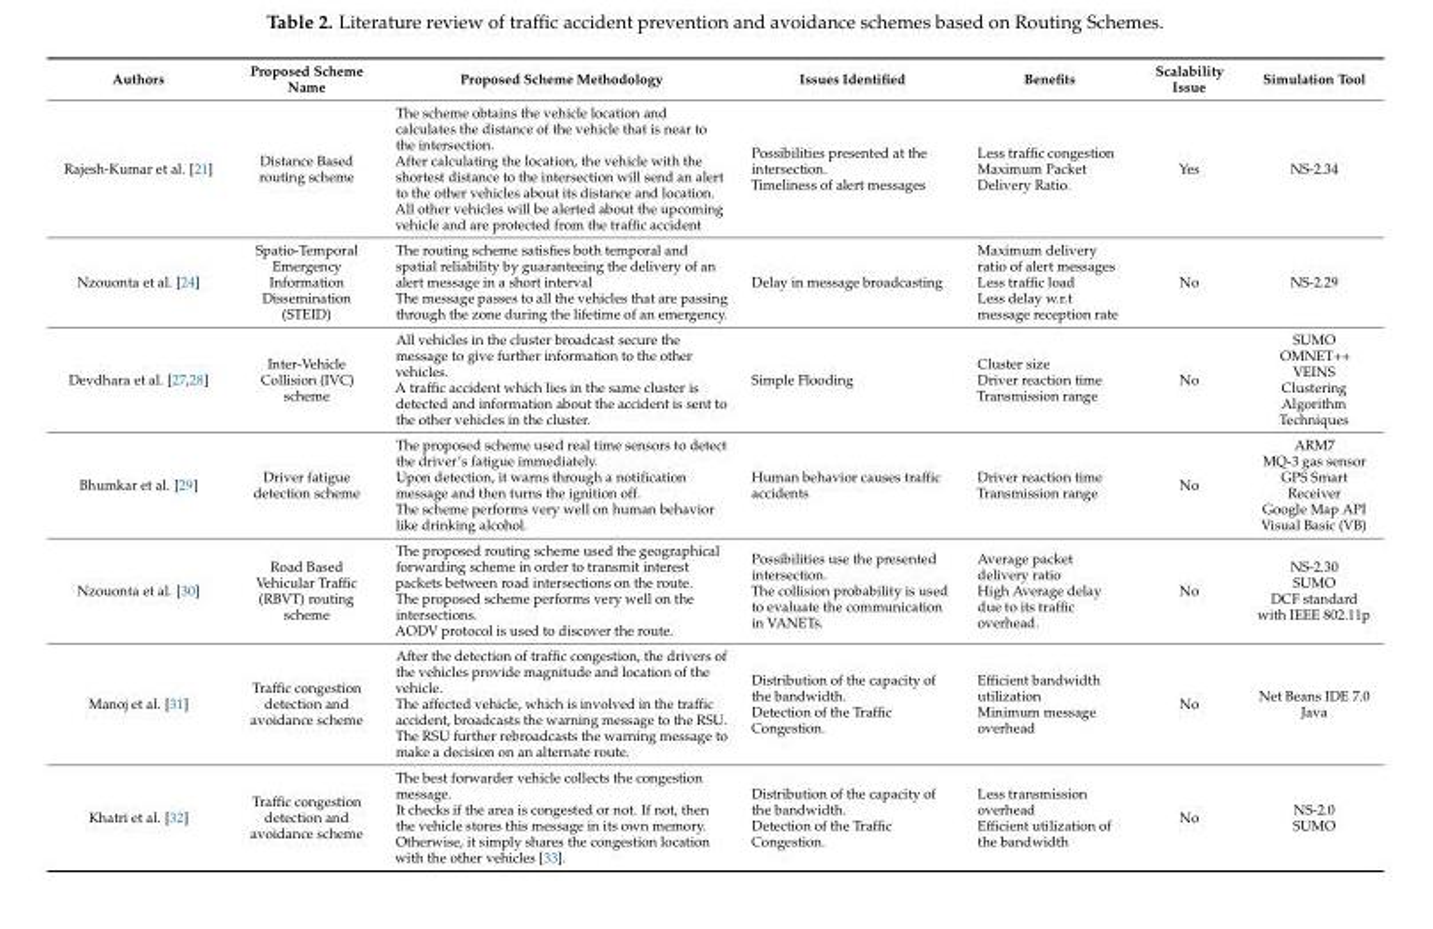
<table><thead><tr><td>Authors</td><td>Proposed Scheme Name</td><td>Proposed Scheme Methodology</td><td>Issues Identified</td><td>Benefits</td><td>Scalability Issue</td><td>Simulation Tool</td></tr></thead><tbody><tr><td>Rajesh-Kumar et al. [21]</td><td>Distance Based routing scheme</td><td>The scheme obtains the vehicle location and calculates the distance of the vehicle that is near to the intersection. After calculating the location, the vehicle with the shortest distance to the intersection will send an alert to the other vehicles about its distance and location. All other vehicles will be alerted about the upcoming vehicle and are protected from the traffic accident</td><td>Possibilities presented at the intersection. Timeliness of alert messages</td><td>Less traffic congestion Maximum Packet Delivery Ratio.</td><td>Yes</td><td>NS-2.34</td></tr><tr><td>Nzouonta et al. [24]</td><td>Spatio-Temporal Emergency Information Dissemination (STEID)</td><td>The routing scheme satisfies both temporal and spatial reliability by guaranteeing the delivery of an alert message in a short interval The message passes to all the vehicles that are passing through the zone during the lifetime of an emergency.</td><td>Delay in message broadcasting</td><td>Maximum delivery ratio of alert messages Less traffic load Less delay w.r.t message reception rate</td><td>No</td><td>NS-2.29</td></tr><tr><td>Devdhara et al. [27,28]</td><td>Inter-Vehicle Collision (IVC) scheme</td><td>All vehicles in the cluster broadcast secure the message to give further information to the other vehicles. A traffic accident which lies in the same cluster is detected and information about the accident is sent to the other vehicles in the cluster.</td><td>Simple Flooding</td><td>Cluster size Driver reaction time Transmission range</td><td>No</td><td>SUMO OMNET++ VEINS Clustering Algorithm Techniques</td></tr><tr><td>Bhumkar et al. [29]</td><td>Driver fatigue detection scheme</td><td>The proposed scheme used real time sensors to detect the driver’s fatigue immediately. Upon detection, it warns through a notification message and then turns the ignition off. The scheme performs very well on human behavior like drinking alcohol.</td><td>Human behavior causes traffic accidents</td><td>Driver reaction time Transmission range</td><td>No</td><td>ARM7 MQ-3 gas sensor GPS Smart Receiver Google Map API Visual Basic (VB)</td></tr><tr><td>Nzouonta et al. [30]</td><td>Road Based Vehicular Traffic (RBVT) routing scheme</td><td>The proposed routing scheme used the geographical forwarding scheme in order to transmit interest packets between road intersections on the route. The proposed scheme performs very well on the intersections. AODV protocol is used to discover the route.</td><td>Possibilities use the presented intersection. The collision probability is used to evaluate the communication in VANETs.</td><td>Average packet delivery ratio High Average delay due to its traffic overhead.</td><td>No</td><td>NS-2.30 SUMO DCF standard with IEEE 802.11p</td></tr><tr><td>Manoj et al. [31]</td><td>Traffic congestion detection and avoidance scheme</td><td>After the detection of traffic congestion, the drivers of the vehicles provide magnitude and location of the vehicle. The affected vehicle, which is involved in the traffic accident, broadcasts the warning message to the RSU. The RSU further rebroadcasts the warning message to make a decision on an alternate route.</td><td>Distribution of the capacity of the bandwidth. Detection of the Traffic Congestion.</td><td>Efficient bandwidth utilization Minimum message overhead</td><td>No</td><td>Net Beans IDE 7.0 Java</td></tr><tr><td>Khatri et al. [32]</td><td>Traffic congestion detection and avoidance scheme</td><td>The best forwarder vehicle collects the congestion message. It checks if the area is congested or not. If not, then the vehicle stores this message in its own memory. Otherwise, it simply shares the congestion location with the other vehicles [33].</td><td>Distribution of the capacity of the bandwidth. Detection of the Traffic Congestion.</td><td>Less transmission overhead Efficient utilization of the bandwidth</td><td>No</td><td>NS-2.0 SUMO</td></tr></tbody></table>